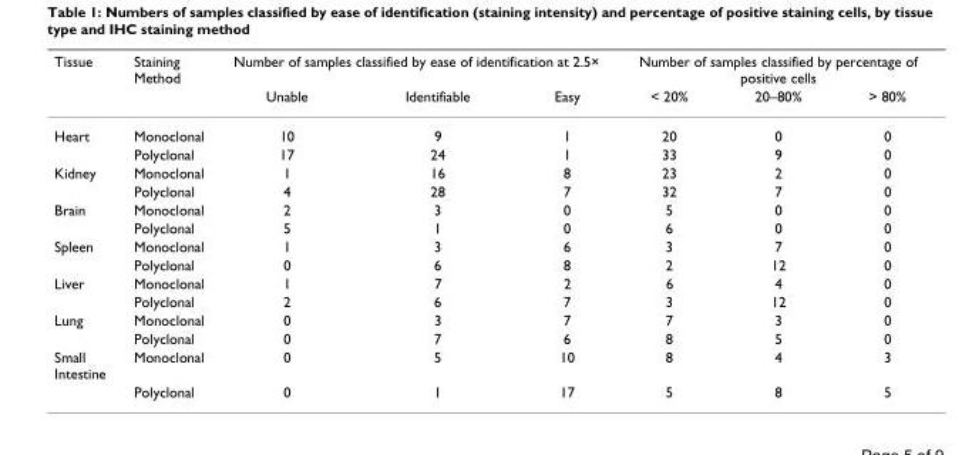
<table><thead><tr><td rowspan="2">Tissue</td><td rowspan="2">Staining Method</td><td colspan="3">Number of samples classified by ease of identification at 2.5×</td><td colspan="3">Number of samples classified by percentage of positive cells</td></tr><tr><td>Unable</td><td>Identifiable</td><td>Easy</td><td>&lt; 20%</td><td>20–80%</td><td>&gt; 80%</td></tr></thead><tbody><tr><td rowspan="2">Heart</td><td>Monoclonal</td><td>10</td><td>9</td><td>1</td><td>20</td><td>0</td><td>0</td></tr><tr><td>Polyclonal</td><td>17</td><td>24</td><td>1</td><td>33</td><td>9</td><td>0</td></tr><tr><td rowspan="2">Kidney</td><td>Monoclonal</td><td>1</td><td>16</td><td>8</td><td>23</td><td>2</td><td>0</td></tr><tr><td>Polyclonal</td><td>4</td><td>28</td><td>7</td><td>32</td><td>7</td><td>0</td></tr><tr><td rowspan="2">Brain</td><td>Monoclonal</td><td>2</td><td>3</td><td>0</td><td>5</td><td>0</td><td>0</td></tr><tr><td>Polyclonal</td><td>5</td><td>1</td><td>0</td><td>6</td><td>0</td><td>0</td></tr><tr><td rowspan="2">Spleen</td><td>Monoclonal</td><td>1</td><td>3</td><td>6</td><td>3</td><td>7</td><td>0</td></tr><tr><td>Polyclonal</td><td>0</td><td>6</td><td>8</td><td>2</td><td>12</td><td>0</td></tr><tr><td rowspan="2">Liver</td><td>Monoclonal</td><td>1</td><td>7</td><td>2</td><td>6</td><td>4</td><td>0</td></tr><tr><td>Polyclonal</td><td>2</td><td>6</td><td>7</td><td>3</td><td>12</td><td>0</td></tr><tr><td rowspan="2">Lung</td><td>Monoclonal</td><td>0</td><td>3</td><td>7</td><td>7</td><td>3</td><td>0</td></tr><tr><td>Polyclonal</td><td>0</td><td>7</td><td>6</td><td>8</td><td>5</td><td>0</td></tr><tr><td rowspan="2">Small Intestine</td><td>Monoclonal</td><td>0</td><td>5</td><td>10</td><td>8</td><td>4</td><td>3</td></tr><tr><td>Polyclonal</td><td>0</td><td>1</td><td>17</td><td>5</td><td>8</td><td>5</td></tr></tbody></table>